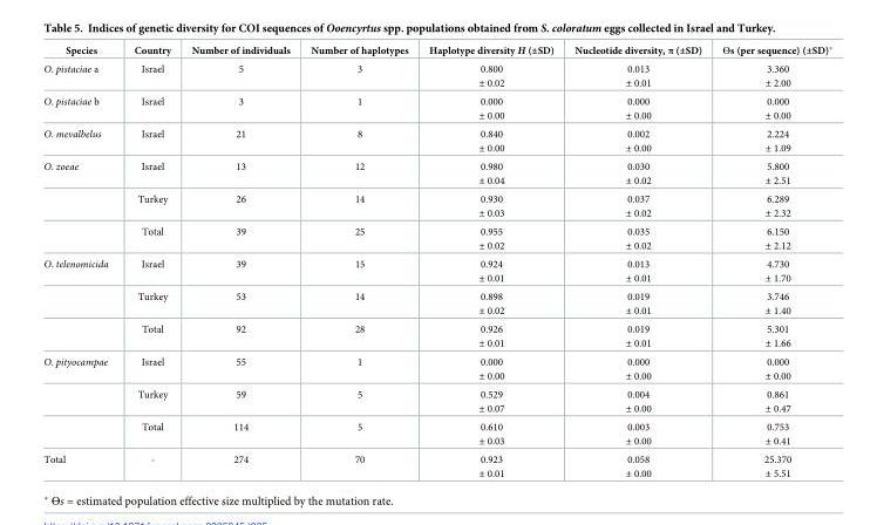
<table><thead><tr><td>Species</td><td>Country</td><td>Number of individuals</td><td>Number of haplotypes</td><td>Haplotype diversity H (±SD)</td><td>Nucleotide diversity, π (±SD)</td><td>Өs (per sequence) (±SD)*</td></tr></thead><tbody><tr><td>O. pistaciae a</td><td>Israel</td><td>5</td><td>3</td><td>0.800 ± 0.02</td><td>0.013 ± 0.01</td><td>3.360 ± 2.00</td></tr><tr><td>O. pistaciae b</td><td>Israel</td><td>3</td><td>1</td><td>0.000 ± 0.00</td><td>0.000 ± 0.00</td><td>0.000 ± 0.00</td></tr><tr><td>O. mevalbelus</td><td>Israel</td><td>21</td><td>8</td><td>0.840 ± 0.00</td><td>0.002 ± 0.00</td><td>2.224 ± 1.09</td></tr><tr><td rowspan="3">O. zoeae</td><td>Israel</td><td>13</td><td>12</td><td>0.980 ± 0.04</td><td>0.030 ± 0.02</td><td>5.800 ± 2.51</td></tr><tr><td>Turkey</td><td>26</td><td>14</td><td>0.930 ± 0.03</td><td>0.037 ± 0.02</td><td>6.289 ± 2.32</td></tr><tr><td>Total</td><td>39</td><td>25</td><td>0.955 ± 0.02</td><td>0.035 ± 0.02</td><td>6.150 ± 2.12</td></tr><tr><td rowspan="3">O. telenomicida</td><td>Israel</td><td>39</td><td>15</td><td>0.924 ± 0.01</td><td>0.013 ± 0.01</td><td>4.730 ± 1.70</td></tr><tr><td>Turkey</td><td>53</td><td>14</td><td>0.898 ± 0.02</td><td>0.019 ± 0.01</td><td>3.746 ± 1.40</td></tr><tr><td>Total</td><td>92</td><td>28</td><td>0.926 ± 0.01</td><td>0.019 ± 0.01</td><td>5.301 ± 1.66</td></tr><tr><td rowspan="3">O. pityocampae</td><td>Israel</td><td>55</td><td>1</td><td>0.000 ± 0.00</td><td>0.000 ± 0.00</td><td>0.000 ± 0.00</td></tr><tr><td>Turkey</td><td>59</td><td>5</td><td>0.529 ± 0.07</td><td>0.004 ± 0.00</td><td>0.861 ± 0.47</td></tr><tr><td>Total</td><td>114</td><td>5</td><td>0.610 ± 0.03</td><td>0.003 ± 0.00</td><td>0.753 ± 0.41</td></tr><tr><td>Total</td><td>-</td><td>274</td><td>70</td><td>0.923 ± 0.01</td><td>0.058 ± 0.00</td><td>25.370 ± 5.51</td></tr></tbody></table>